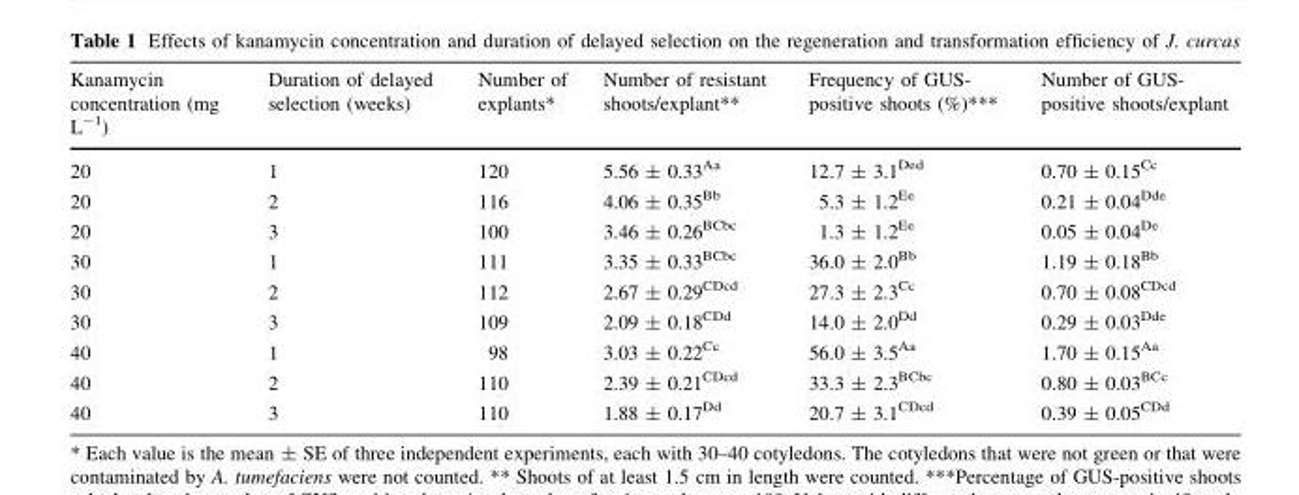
<table><thead><tr><td>Kanamycin concentration (mg L<sup>-1</sup>)</td><td>Duration of delayed selection (weeks)</td><td>Number of explants*</td><td>Number of resistant shoots/explant**</td><td>Frequency of GUS- positive shoots (%)***</td><td>Number of GUS- positive shoots/explant</td></tr></thead><tbody><tr><td>20</td><td>1</td><td>120</td><td>5.56 ± 0.33<sup>Aa</sup></td><td>12.7 ± 3.1<sup>Ded</sup></td><td>0.70 ± 0.15<sup>Cc</sup></td></tr><tr><td>20</td><td>2</td><td>116</td><td>4.06 ± 0.35<sup>Bb</sup></td><td>5.3 ± 1.2<sup>Ee</sup></td><td>0.21 ± 0.04<sup>Dde</sup></td></tr><tr><td>20</td><td>3</td><td>100</td><td>3.46 ± 0.26<sup>BCbc</sup></td><td>1.3 ± 1.2<sup>Ee</sup></td><td>0.05 ± 0.04<sup>De</sup></td></tr><tr><td>30</td><td>1</td><td>111</td><td>3.35 ± 0.33<sup>BCbc</sup></td><td>36.0 ± 2.0<sup>Bb</sup></td><td>1.19 ± 0.18<sup>Bb</sup></td></tr><tr><td>30</td><td>2</td><td>112</td><td>2.67 ± 0.29<sup>CDcd</sup></td><td>27.3 ± 2.3<sup>Cc</sup></td><td>0.70 ± 0.08<sup>CDcd</sup></td></tr><tr><td>30</td><td>3</td><td>109</td><td>2.09 ± 0.18<sup>CDd</sup></td><td>14.0 ± 2.0<sup>Dd</sup></td><td>0.29 ± 0.03<sup>Dde</sup></td></tr><tr><td>40</td><td>1</td><td>98</td><td>3.03 ± 0.22<sup>Cc</sup></td><td>56.0 ± 3.5<sup>Aa</sup></td><td>1.70 ± 0.15<sup>Aa</sup></td></tr><tr><td>40</td><td>2</td><td>110</td><td>2.39 ± 0.21<sup>CDcd</sup></td><td>33.3 ± 2.3<sup>BCbc</sup></td><td>0.80 ± 0.03<sup>BCc</sup></td></tr><tr><td>40</td><td>3</td><td>110</td><td>1.88 ± 0.17<sup>Dd</sup></td><td>20.7 ± 3.1<sup>CDcd</sup></td><td>0.39 ± 0.05<sup>CDd</sup></td></tr></tbody></table>